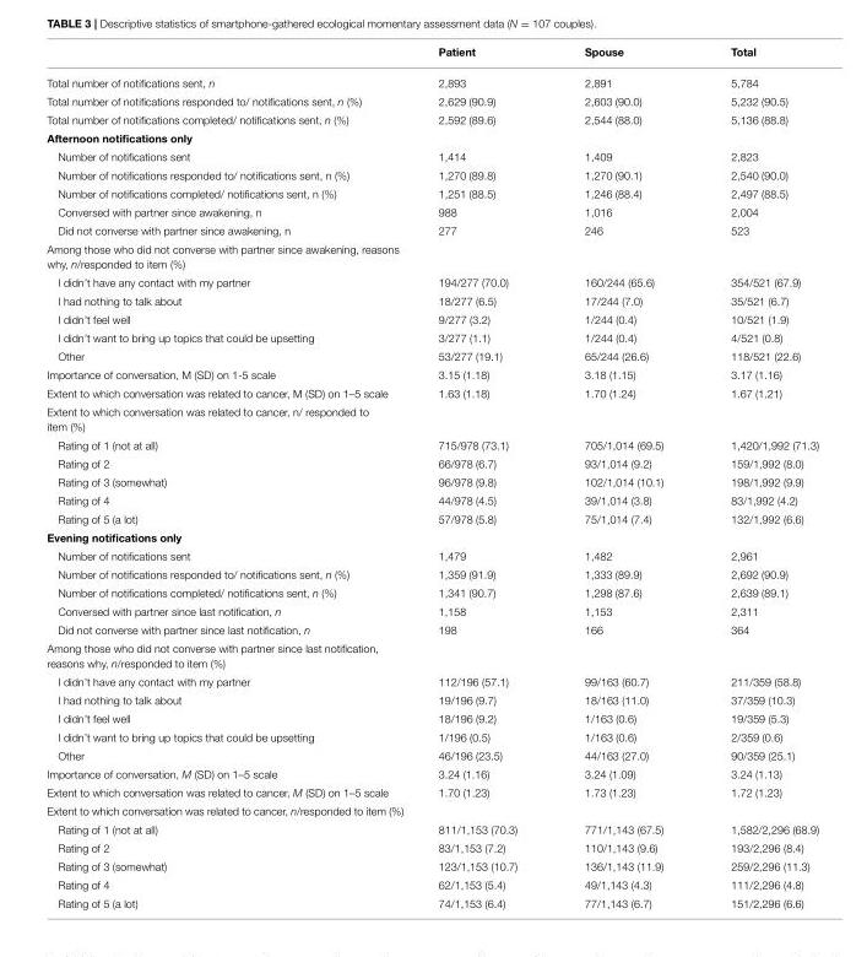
<table><thead><tr><td></td><td>Patient</td><td>Spouse</td><td>Total</td></tr></thead><tbody><tr><td>Total number of notifications sent, n</td><td>2,893</td><td>2,891</td><td>5,784</td></tr><tr><td>Total number of notifications responded to/ notifications sent, n (%)</td><td>2,629 (90.9)</td><td>2,603 (90.0)</td><td>5,232 (90.5)</td></tr><tr><td>Total number of notifications completed/ notifications sent, n (%)</td><td>2,592 (89.6)</td><td>2,544 (88.0)</td><td>5,136 (88.8)</td></tr><tr><td colspan="4">Afternoon notifications only</td></tr><tr><td>Number of notifications sent</td><td>1,414</td><td>1,409</td><td>2,823</td></tr><tr><td>Number of notifications responded to/ notifications sent, n (%)</td><td>1,270 (89.8)</td><td>1,270 (90.1)</td><td>2,540 (90.0)</td></tr><tr><td>Number of notifications completed/ notifications sent, n (%)</td><td>1,251 (88.5)</td><td>1,246 (88.4)</td><td>2,497 (88.5)</td></tr><tr><td>Conversed with partner since awakening, n</td><td>988</td><td>1,016</td><td>2,004</td></tr><tr><td>Did not converse with partner since awakening, n</td><td>277</td><td>246</td><td>523</td></tr><tr><td colspan="4">Among those who did not converse with partner since awakening, reasons why, n/responded to item (%)</td></tr><tr><td>I didn’t have any contact with my partner</td><td>194/277 (70.0)</td><td>160/244 (65.6)</td><td>354/521 (67.9)</td></tr><tr><td>I had nothing to talk about</td><td>18/277 (6.5)</td><td>17/244 (7.0)</td><td>35/521 (6.7)</td></tr><tr><td>I didn’t feel well</td><td>9/277 (3.2)</td><td>1/244 (0.4)</td><td>10/521 (1.9)</td></tr><tr><td>I didn’t want to bring up topics that could be upsetting</td><td>3/277 (1.1)</td><td>1/244 (0.4)</td><td>4/521 (0.8)</td></tr><tr><td>Other</td><td>53/277 (19.1)</td><td>65/244 (26.6)</td><td>118/521 (22.6)</td></tr><tr><td>Importance of conversation, M (SD) on 1-5 scale</td><td>3.15 (1.18)</td><td>3.18 (1.15)</td><td>3.17 (1.16)</td></tr><tr><td>Extent to which conversation was related to cancer, M (SD) on 1–5 scale</td><td>1.63 (1.18)</td><td>1.70 (1.24)</td><td>1.67 (1.21)</td></tr><tr><td colspan="4">Extent to which conversation was related to cancer, n/ responded to item (%)</td></tr><tr><td>Rating of 1 (not at all)</td><td>715/978 (73.1)</td><td>705/1,014 (69.5)</td><td>1,420/1,992 (71.3)</td></tr><tr><td>Rating of 2</td><td>66/978 (6.7)</td><td>93/1,014 (9.2)</td><td>159/1,992 (8.0)</td></tr><tr><td>Rating of 3 (somewhat)</td><td>96/978 (9.8)</td><td>102/1,014 (10.1)</td><td>198/1,992 (9.9)</td></tr><tr><td>Rating of 4</td><td>44/978 (4.5)</td><td>39/1,014 (3.8)</td><td>83/1,992 (4.2)</td></tr><tr><td>Rating of 5 (a lot)</td><td>57/978 (5.8)</td><td>75/1,014 (7.4)</td><td>132/1,992 (6.6)</td></tr><tr><td colspan="4">Evening notifications only</td></tr><tr><td>Number of notifications sent</td><td>1,479</td><td>1,482</td><td>2,961</td></tr><tr><td>Number of notifications responded to/ notifications sent, n (%)</td><td>1,359 (91.9)</td><td>1,333 (89.9)</td><td>2,692 (90.9)</td></tr><tr><td>Number of notifications completed/ notifications sent, n (%)</td><td>1,341 (90.7)</td><td>1,298 (87.6)</td><td>2,639 (89.1)</td></tr><tr><td>Conversed with partner since last notification, n</td><td>1,158</td><td>1,153</td><td>2,311</td></tr><tr><td>Did not converse with partner since last notification, n</td><td>198</td><td>166</td><td>364</td></tr><tr><td colspan="4">Among those who did not converse with partner since last notification, reasons why, n/responded to item (%)</td></tr><tr><td>I didn’t have any contact with my partner</td><td>112/196 (57.1)</td><td>99/163 (60.7)</td><td>211/359 (58.8)</td></tr><tr><td>I had nothing to talk about</td><td>19/196 (9.7)</td><td>18/163 (11.0)</td><td>37/359 (10.3)</td></tr><tr><td>I didn’t feel well</td><td>18/196 (9.2)</td><td>1/163 (0.6)</td><td>19/359 (5.3)</td></tr><tr><td>I didn’t want to bring up topics that could be upsetting</td><td>1/196 (0.5)</td><td>1/163 (0.6)</td><td>2/359 (0.6)</td></tr><tr><td>Other</td><td>46/196 (23.5)</td><td>44/163 (27.0)</td><td>90/359 (25.1)</td></tr><tr><td>Importance of conversation, M (SD) on 1–5 scale</td><td>3.24 (1.16)</td><td>3.24 (1.09)</td><td>3.24 (1.13)</td></tr><tr><td>Extent to which conversation was related to cancer, M (SD) on 1–5 scale</td><td>1.70 (1.23)</td><td>1.73 (1.23)</td><td>1.72 (1.23)</td></tr><tr><td colspan="4">Extent to which conversation was related to cancer, n/responded to item (%)</td></tr><tr><td>Rating of 1 (not at all)</td><td>811/1,153 (70.3)</td><td>771/1,143 (67.5)</td><td>1,582/2,296 (68.9)</td></tr><tr><td>Rating of 2</td><td>83/1,153 (7.2)</td><td>110/1,143 (9.6)</td><td>193/2,296 (8.4)</td></tr><tr><td>Rating of 3 (somewhat)</td><td>123/1,153 (10.7)</td><td>136/1,143 (11.9)</td><td>259/2,296 (11.3)</td></tr><tr><td>Rating of 4</td><td>62/1,153 (5.4)</td><td>49/1,143 (4.3)</td><td>111/2,296 (4.8)</td></tr><tr><td>Rating of 5 (a lot)</td><td>74/1,153 (6.4)</td><td>77/1,143 (6.7)</td><td>151/2,296 (6.6)</td></tr></tbody></table>